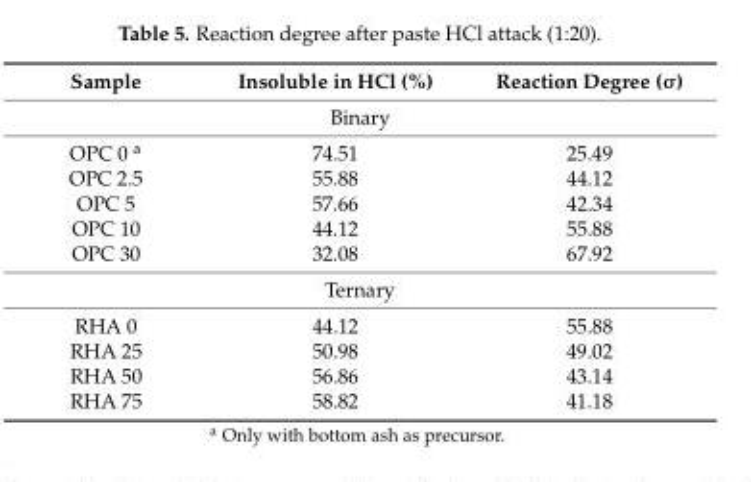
<table><thead><tr><td>Sample</td><td>Insoluble in HCl (%)</td><td>Reaction Degree (σ)</td></tr></thead><tbody><tr><td colspan="3">Binary</td></tr><tr><td>OPC 0 <sup>a</sup></td><td>74.51</td><td>25.49</td></tr><tr><td>OPC 2.5</td><td>55.88</td><td>44.12</td></tr><tr><td>OPC 5</td><td>57.66</td><td>42.34</td></tr><tr><td>OPC 10</td><td>44.12</td><td>55.88</td></tr><tr><td>OPC 30</td><td>32.08</td><td>67.92</td></tr><tr><td colspan="3">Ternary</td></tr><tr><td>RHA 0</td><td>44.12</td><td>55.88</td></tr><tr><td>RHA 25</td><td>50.98</td><td>49.02</td></tr><tr><td>RHA 50</td><td>56.86</td><td>43.14</td></tr><tr><td>RHA 75</td><td>58.82</td><td>41.18</td></tr></tbody></table>